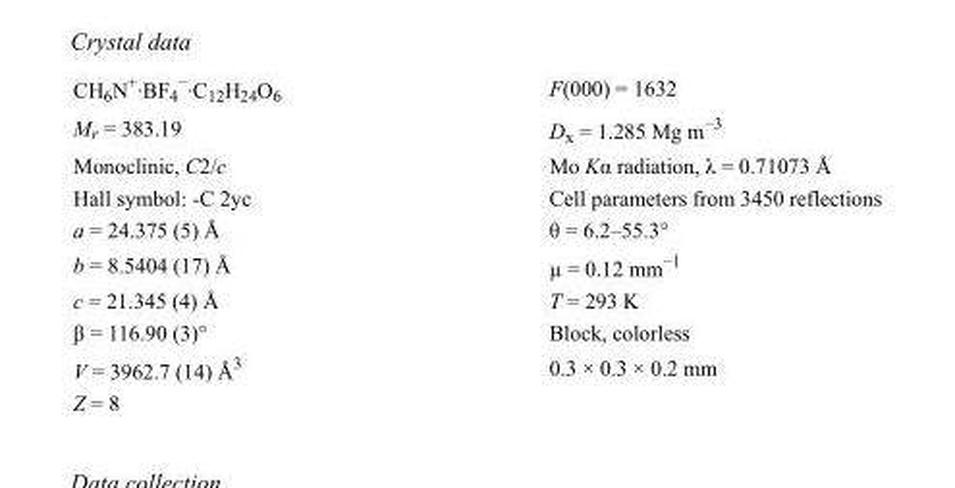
<table><tbody><tr><td>CH<sub>6</sub>N<sup>+</sup>·BF<sub>4</sub> <sup>−</sup>·C<sub>12</sub>H<sub>24</sub>O<sub>6</sub></td><td>F(000) = 1632</td></tr><tr><td>M<sub>r</sub> = 383.19</td><td>D<sub>x</sub> = 1.285 Mg m<sup>−3</sup></td></tr><tr><td>Monoclinic, C2/c</td><td>Mo Kα radiation, λ = 0.71073 Å</td></tr><tr><td>Hall symbol: -C 2yc</td><td>Cell parameters from 3450 reflections</td></tr><tr><td>a = 24.375 (5) Å</td><td>θ = 6.2–55.3°</td></tr><tr><td>b = 8.5404 (17) Å</td><td>µ = 0.12 mm<sup>−1</sup></td></tr><tr><td>c = 21.345 (4) Å</td><td>T = 293 K</td></tr><tr><td>β = 116.90 (3)°</td><td>Block, colorless</td></tr><tr><td>V = 3962.7 (14) Å<sup>3</sup></td><td>0.3 × 0.3 × 0.2 mm</td></tr><tr><td>Z = 8</td><td></td></tr></tbody></table>